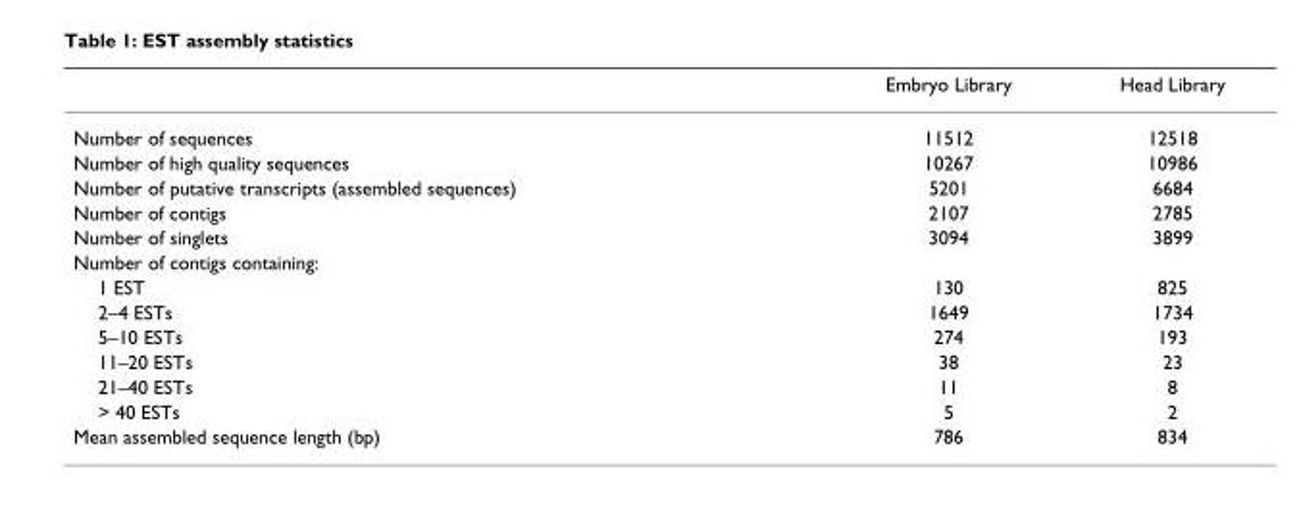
<table><thead><tr><td></td><td>Embryo Library</td><td>Head Library</td></tr></thead><tbody><tr><td>Number of sequences</td><td>11512</td><td>12518</td></tr><tr><td>Number of high quality sequences</td><td>10267</td><td>10986</td></tr><tr><td>Number of putative transcripts (assembled sequences)</td><td>5201</td><td>6684</td></tr><tr><td>Number of contigs</td><td>2107</td><td>2785</td></tr><tr><td>Number of singlets</td><td>3094</td><td>3899</td></tr><tr><td colspan="3">Number of contigs containing:</td></tr><tr><td>1 EST</td><td>130</td><td>825</td></tr><tr><td>2–4 ESTs</td><td>1649</td><td>1734</td></tr><tr><td>5–10 ESTs</td><td>274</td><td>193</td></tr><tr><td>11–20 ESTs</td><td>38</td><td>23</td></tr><tr><td>21–40 ESTs</td><td>11</td><td>8</td></tr><tr><td>&gt; 40 ESTs</td><td>5</td><td>2</td></tr><tr><td>Mean assembled sequence length (bp)</td><td>786</td><td>834</td></tr></tbody></table>